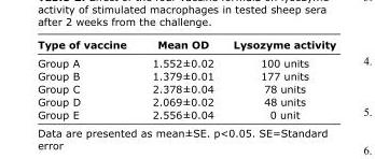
<table><thead><tr><td>Type of vaccine</td><td>Mean OD</td><td>Lysozyme activity</td></tr></thead><tbody><tr><td>Group A</td><td>1.552±0.02</td><td>100 units</td></tr><tr><td>Group B</td><td>1.379±0.01</td><td>177 units</td></tr><tr><td>Group C</td><td>2.378±0.04</td><td>78 units</td></tr><tr><td>Group D</td><td>2.069±0.02</td><td>48 units</td></tr><tr><td>Group E</td><td>2.556±0.04</td><td>0 unit</td></tr></tbody></table>